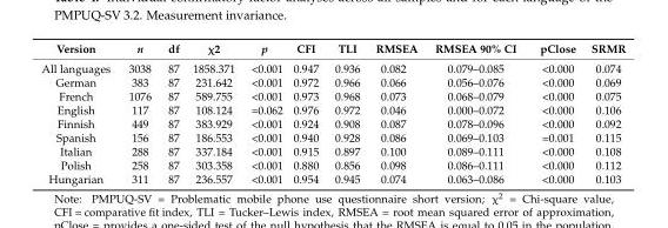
<table><thead><tr><td>Version</td><td>n</td><td>df</td><td>χ2</td><td>p</td><td>CFI</td><td>TLI</td><td>RMSEA</td><td>RMSEA 90% CI</td><td>pClose</td><td>SRMR</td></tr></thead><tbody><tr><td>All languages</td><td>3038</td><td>87</td><td>1858.371</td><td>&lt;0.001</td><td>0.947</td><td>0.936</td><td>0.082</td><td>0.079–0.085</td><td>&lt;0.000</td><td>0.074</td></tr><tr><td>German</td><td>383</td><td>87</td><td>231.642</td><td>&lt;0.001</td><td>0.972</td><td>0.966</td><td>0.066</td><td>0.056–0.076</td><td>&lt;0.000</td><td>0.069</td></tr><tr><td>French</td><td>1076</td><td>87</td><td>589.755</td><td>&lt;0.001</td><td>0.973</td><td>0.968</td><td>0.073</td><td>0.068–0.079</td><td>&lt;0.000</td><td>0.075</td></tr><tr><td>English</td><td>117</td><td>87</td><td>108.124</td><td>=0.062</td><td>0.976</td><td>0.972</td><td>0.046</td><td>0.000–0.072</td><td>&lt;0.000</td><td>0.106</td></tr><tr><td>Finnish</td><td>449</td><td>87</td><td>383.929</td><td>&lt;0.001</td><td>0.924</td><td>0.908</td><td>0.087</td><td>0.078–0.096</td><td>&lt;0.000</td><td>0.092</td></tr><tr><td>Spanish</td><td>156</td><td>87</td><td>186.553</td><td>&lt;0.001</td><td>0.940</td><td>0.928</td><td>0.086</td><td>0.069–0.103</td><td>=0.001</td><td>0.115</td></tr><tr><td>Italian</td><td>288</td><td>87</td><td>337.184</td><td>&lt;0.001</td><td>0.915</td><td>0.897</td><td>0.100</td><td>0.089–0.111</td><td>&lt;0.000</td><td>0.108</td></tr><tr><td>Polish</td><td>258</td><td>87</td><td>303.358</td><td>&lt;0.001</td><td>0.880</td><td>0.856</td><td>0.098</td><td>0.086–0.111</td><td>&lt;0.000</td><td>0.112</td></tr><tr><td>Hungarian</td><td>311</td><td>87</td><td>236.557</td><td>&lt;0.001</td><td>0.954</td><td>0.945</td><td>0.074</td><td>0.063–0.086</td><td>&lt;0.000</td><td>0.103</td></tr></tbody></table>